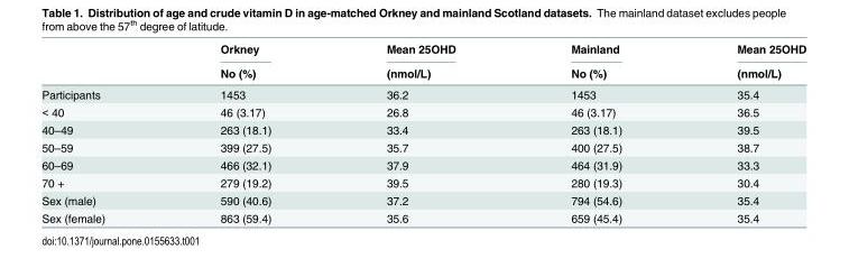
<table><thead><tr><td rowspan="2"></td><td rowspan="2">Orkney No (%)</td><td rowspan="2">Mean 25OHD (nmol/L)</td><td rowspan="2">Mainland No (%)</td><td rowspan="2">Mean 25OHD (nmol/L)</td></tr><tr></tr></thead><tbody><tr><td>Participants</td><td>1453</td><td>36.2</td><td>1453</td><td>35.4</td></tr><tr><td>&lt; 40</td><td>46 (3.17)</td><td>26.8</td><td>46 (3.17)</td><td>36.5</td></tr><tr><td>40–49</td><td>263 (18.1)</td><td>33.4</td><td>263 (18.1)</td><td>39.5</td></tr><tr><td>50–59</td><td>399 (27.5)</td><td>35.7</td><td>400 (27.5)</td><td>38.7</td></tr><tr><td>60–69</td><td>466 (32.1)</td><td>37.9</td><td>464 (31.9)</td><td>33.3</td></tr><tr><td>70 +</td><td>279 (19.2)</td><td>39.5</td><td>280 (19.3)</td><td>30.4</td></tr><tr><td>Sex (male)</td><td>590 (40.6)</td><td>37.2</td><td>794 (54.6)</td><td>35.4</td></tr><tr><td>Sex (female)</td><td>863 (59.4)</td><td>35.6</td><td>659 (45.4)</td><td>35.4</td></tr></tbody></table>